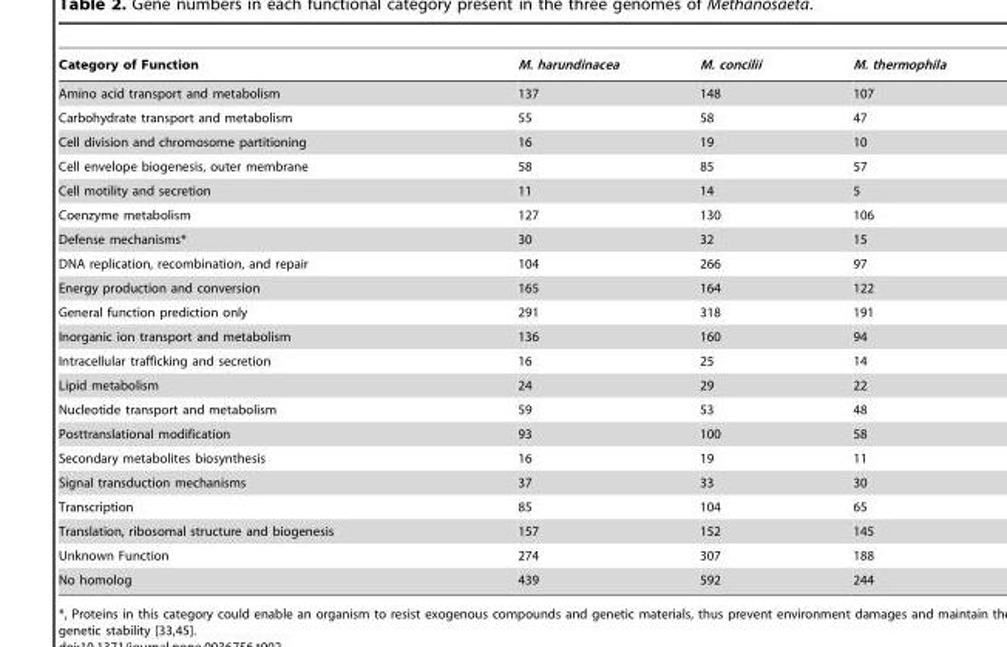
<table><thead><tr><td>Category of Function</td><td>M. harundinacea</td><td>M. concilii</td><td>M. thermophila</td></tr></thead><tbody><tr><td>Amino acid transport and metabolism</td><td>137</td><td>148</td><td>107</td></tr><tr><td>Carbohydrate transport and metabolism</td><td>55</td><td>58</td><td>47</td></tr><tr><td>Cell division and chromosome partitioning</td><td>16</td><td>19</td><td>10</td></tr><tr><td>Cell envelope biogenesis, outer membrane</td><td>58</td><td>85</td><td>57</td></tr><tr><td>Cell motility and secretion</td><td>11</td><td>14</td><td>5</td></tr><tr><td>Coenzyme metabolism</td><td>127</td><td>130</td><td>106</td></tr><tr><td>Defense mechanisms*</td><td>30</td><td>32</td><td>15</td></tr><tr><td>DNA replication, recombination, and repair</td><td>104</td><td>266</td><td>97</td></tr><tr><td>Energy production and conversion</td><td>165</td><td>164</td><td>122</td></tr><tr><td>General function prediction only</td><td>291</td><td>318</td><td>191</td></tr><tr><td>Inorganic ion transport and metabolism</td><td>136</td><td>160</td><td>94</td></tr><tr><td>Intracellular trafficking and secretion</td><td>16</td><td>25</td><td>14</td></tr><tr><td>Lipid metabolism</td><td>24</td><td>29</td><td>22</td></tr><tr><td>Nucleotide transport and metabolism</td><td>59</td><td>53</td><td>48</td></tr><tr><td>Posttranslational modification</td><td>93</td><td>100</td><td>58</td></tr><tr><td>Secondary metabolites biosynthesis</td><td>16</td><td>19</td><td>11</td></tr><tr><td>Signal transduction mechanisms</td><td>37</td><td>33</td><td>30</td></tr><tr><td>Transcription</td><td>85</td><td>104</td><td>65</td></tr><tr><td>Translation, ribosomal structure and biogenesis</td><td>157</td><td>152</td><td>145</td></tr><tr><td>Unknown Function</td><td>274</td><td>307</td><td>188</td></tr><tr><td>No homolog</td><td>439</td><td>592</td><td>244</td></tr></tbody></table>